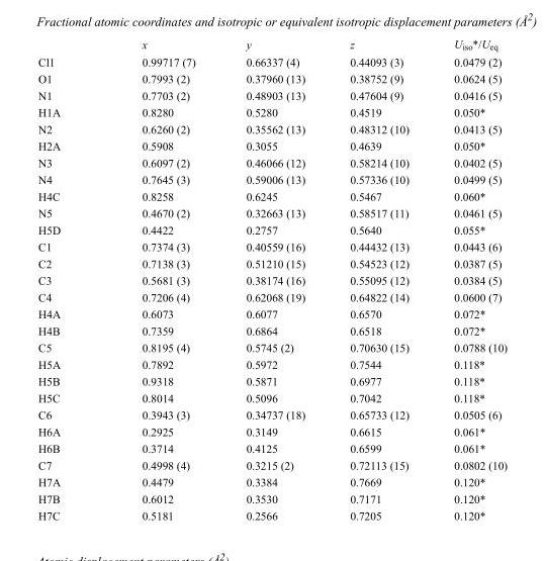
<table><thead><tr><td></td><td>x</td><td>y</td><td>z</td><td>U<sub>iso</sub>*/U<sub>eq</sub></td></tr></thead><tbody><tr><td>Cl1</td><td>0.99717 (7)</td><td>0.66337 (4)</td><td>0.44093 (3)</td><td>0.0479 (2)</td></tr><tr><td>O1</td><td>0.7993 (2)</td><td>0.37960 (13)</td><td>0.38752 (9)</td><td>0.0624 (5)</td></tr><tr><td>N1</td><td>0.7703 (2)</td><td>0.48903 (13)</td><td>0.47604 (9)</td><td>0.0416 (5)</td></tr><tr><td>H1A</td><td>0.8280</td><td>0.5280</td><td>0.4519</td><td>0.050*</td></tr><tr><td>N2</td><td>0.6260 (2)</td><td>0.35562 (13)</td><td>0.48312 (10)</td><td>0.0413 (5)</td></tr><tr><td>H2A</td><td>0.5908</td><td>0.3055</td><td>0.4639</td><td>0.050*</td></tr><tr><td>N3</td><td>0.6097 (2)</td><td>0.46066 (12)</td><td>0.58214 (10)</td><td>0.0402 (5)</td></tr><tr><td>N4</td><td>0.7645 (3)</td><td>0.59006 (13)</td><td>0.57336 (10)</td><td>0.0499 (5)</td></tr><tr><td>H4C</td><td>0.8258</td><td>0.6245</td><td>0.5467</td><td>0.060*</td></tr><tr><td>N5</td><td>0.4670 (2)</td><td>0.32663 (13)</td><td>0.58517 (11)</td><td>0.0461 (5)</td></tr><tr><td>H5D</td><td>0.4422</td><td>0.2757</td><td>0.5640</td><td>0.055*</td></tr><tr><td>C1</td><td>0.7374 (3)</td><td>0.40559 (16)</td><td>0.44432 (13)</td><td>0.0443 (6)</td></tr><tr><td>C2</td><td>0.7138 (3)</td><td>0.51210 (15)</td><td>0.54523 (12)</td><td>0.0387 (5)</td></tr><tr><td>C3</td><td>0.5681 (3)</td><td>0.38174 (16)</td><td>0.55095 (12)</td><td>0.0384 (5)</td></tr><tr><td>C4</td><td>0.7206 (4)</td><td>0.62068 (19)</td><td>0.64822 (14)</td><td>0.0600 (7)</td></tr><tr><td>H4A</td><td>0.6073</td><td>0.6077</td><td>0.6570</td><td>0.072*</td></tr><tr><td>H4B</td><td>0.7359</td><td>0.6864</td><td>0.6518</td><td>0.072*</td></tr><tr><td>C5</td><td>0.8195 (4)</td><td>0.5745 (2)</td><td>0.70630 (15)</td><td>0.0788 (10)</td></tr><tr><td>H5A</td><td>0.7892</td><td>0.5972</td><td>0.7544</td><td>0.118*</td></tr><tr><td>H5B</td><td>0.9318</td><td>0.5871</td><td>0.6977</td><td>0.118*</td></tr><tr><td>H5C</td><td>0.8014</td><td>0.5096</td><td>0.7042</td><td>0.118*</td></tr><tr><td>C6</td><td>0.3943 (3)</td><td>0.34737 (18)</td><td>0.65733 (12)</td><td>0.0505 (6)</td></tr><tr><td>H6A</td><td>0.2925</td><td>0.3149</td><td>0.6615</td><td>0.061*</td></tr><tr><td>H6B</td><td>0.3714</td><td>0.4125</td><td>0.6599</td><td>0.061*</td></tr><tr><td>C7</td><td>0.4998 (4)</td><td>0.3215 (2)</td><td>0.72113 (15)</td><td>0.0802 (10)</td></tr><tr><td>H7A</td><td>0.4479</td><td>0.3384</td><td>0.7669</td><td>0.120*</td></tr><tr><td>H7B</td><td>0.6012</td><td>0.3530</td><td>0.7171</td><td>0.120*</td></tr><tr><td>H7C</td><td>0.5181</td><td>0.2566</td><td>0.7205</td><td>0.120*</td></tr></tbody></table>